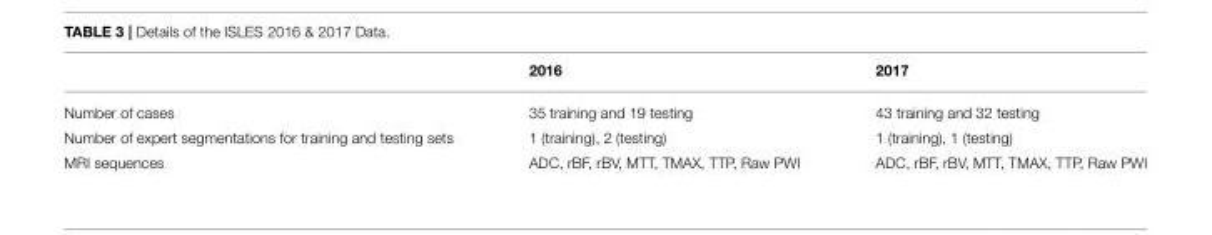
<table><thead><tr><td></td><td>2016</td><td>2017</td></tr></thead><tbody><tr><td>Number of cases</td><td>35 training and 19 testing</td><td>43 training and 32 testing</td></tr><tr><td>Number of expert segmentations for training and testing sets</td><td>1 (training), 2 (testing)</td><td>1 (training), 1 (testing)</td></tr><tr><td>MRI sequences</td><td>ADC, rBF, rBV, MTT, TMAX, TTP, Raw PWI</td><td>ADC, rBF, rBV, MTT, TMAX, TTP, Raw PWI</td></tr></tbody></table>